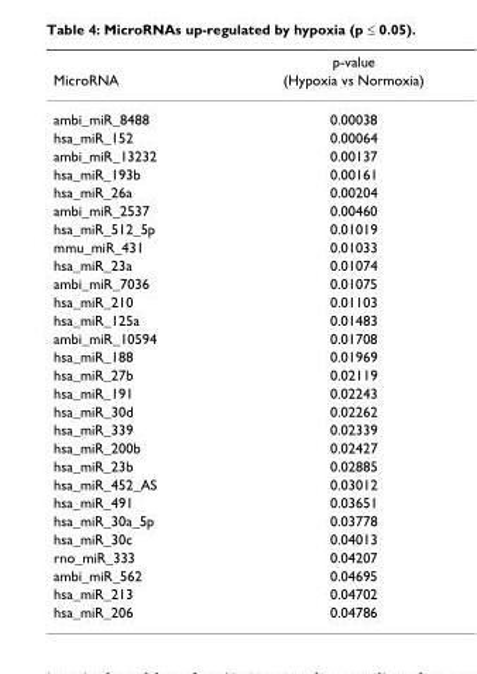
<table><thead><tr><td rowspan="2">MicroRNA</td><td rowspan="2">p-value (Hypoxia vs Normoxia)</td></tr><tr></tr></thead><tbody><tr><td>ambi_miR_8488</td><td>0.00038</td></tr><tr><td>hsa_miR_152</td><td>0.00064</td></tr><tr><td>ambi_miR_13232</td><td>0.00137</td></tr><tr><td>hsa_miR_193b</td><td>0.00161</td></tr><tr><td>hsa_miR_26a</td><td>0.00204</td></tr><tr><td>ambi_miR_2537</td><td>0.00460</td></tr><tr><td>hsa_miR_512_5p</td><td>0.01019</td></tr><tr><td>mmu_miR_431</td><td>0.01033</td></tr><tr><td>hsa_miR_23a</td><td>0.01074</td></tr><tr><td>ambi_miR_7036</td><td>0.01075</td></tr><tr><td>hsa_miR_210</td><td>0.01103</td></tr><tr><td>hsa_miR_125a</td><td>0.01483</td></tr><tr><td>ambi_miR_10594</td><td>0.01708</td></tr><tr><td>hsa_miR_188</td><td>0.01969</td></tr><tr><td>hsa_miR_27b</td><td>0.02119</td></tr><tr><td>hsa_miR_191</td><td>0.02243</td></tr><tr><td>hsa_miR_30d</td><td>0.02262</td></tr><tr><td>hsa_miR_339</td><td>0.02339</td></tr><tr><td>hsa_miR_200b</td><td>0.02427</td></tr><tr><td>hsa_miR_23b</td><td>0.02885</td></tr><tr><td>hsa_miR_452_AS</td><td>0.03012</td></tr><tr><td>hsa_miR_491</td><td>0.03651</td></tr><tr><td>hsa_miR_30a_5p</td><td>0.03778</td></tr><tr><td>hsa_miR_30c</td><td>0.04013</td></tr><tr><td>rno_miR_333</td><td>0.04207</td></tr><tr><td>ambi_miR_562</td><td>0.04695</td></tr><tr><td>hsa_miR_213</td><td>0.04702</td></tr><tr><td>hsa_miR_206</td><td>0.04786</td></tr></tbody></table>